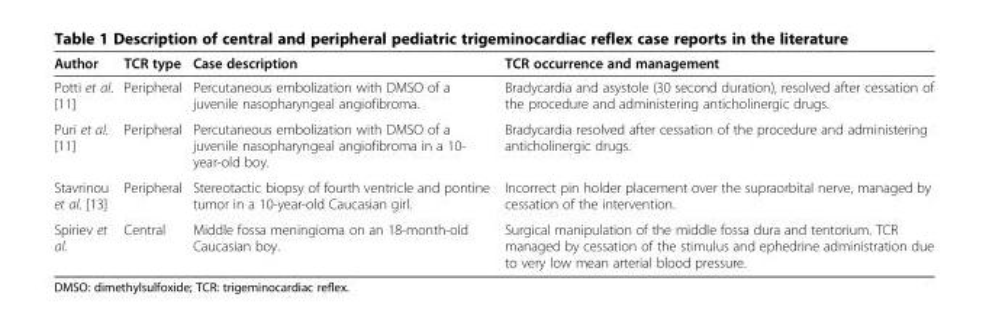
<table><thead><tr><td>Author</td><td>TCR type</td><td>Case description</td><td>TCR occurrence and management</td></tr></thead><tbody><tr><td>Potti et al. [11]</td><td>Peripheral</td><td>Percutaneous embolization with DMSO of a juvenile nasopharyngeal angiofibroma.</td><td>Bradycardia and asystole (30 second duration), resolved after cessation of the procedure and administering anticholinergic drugs.</td></tr><tr><td>Puri et al. [11]</td><td>Peripheral</td><td>Percutaneous embolization with DMSO of a juvenile nasopharyngeal angiofibroma in a 10- year-old boy.</td><td>Bradycardia resolved after cessation of the procedure and administering anticholinergic drugs.</td></tr><tr><td>Stavrinou et al. [13]</td><td>Peripheral</td><td>Stereotactic biopsy of fourth ventricle and pontine tumor in a 10-year-old Caucasian girl.</td><td>Incorrect pin holder placement over the supraorbital nerve, managed by cessation of the intervention.</td></tr><tr><td>Spiriev et al.</td><td>Central</td><td>Middle fossa meningioma on an 18-month-old Caucasian boy.</td><td>Surgical manipulation of the middle fossa dura and tentorium. TCR managed by cessation of the stimulus and ephedrine administration due to very low mean arterial blood pressure.</td></tr></tbody></table>